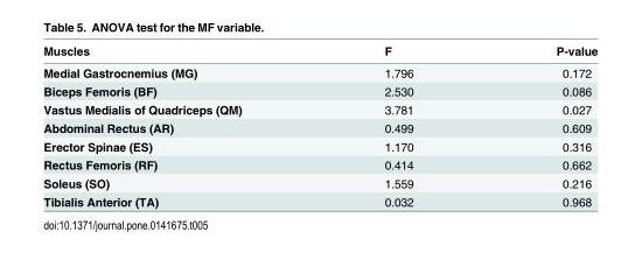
<table><thead><tr><td>Muscles</td><td>F</td><td>P-value</td></tr></thead><tbody><tr><td>Medial Gastrocnemius (MG)</td><td>1.796</td><td>0.172</td></tr><tr><td>Biceps Femoris (BF)</td><td>2.530</td><td>0.086</td></tr><tr><td>Vastus Medialis of Quadriceps (QM)</td><td>3.781</td><td>0.027</td></tr><tr><td>Abdominal Rectus (AR)</td><td>0.499</td><td>0.609</td></tr><tr><td>Erector Spinae (ES)</td><td>1.170</td><td>0.316</td></tr><tr><td>Rectus Femoris (RF)</td><td>0.414</td><td>0.662</td></tr><tr><td>Soleus (SO)</td><td>1.559</td><td>0.216</td></tr><tr><td>Tibialis Anterior (TA)</td><td>0.032</td><td>0.968</td></tr></tbody></table>